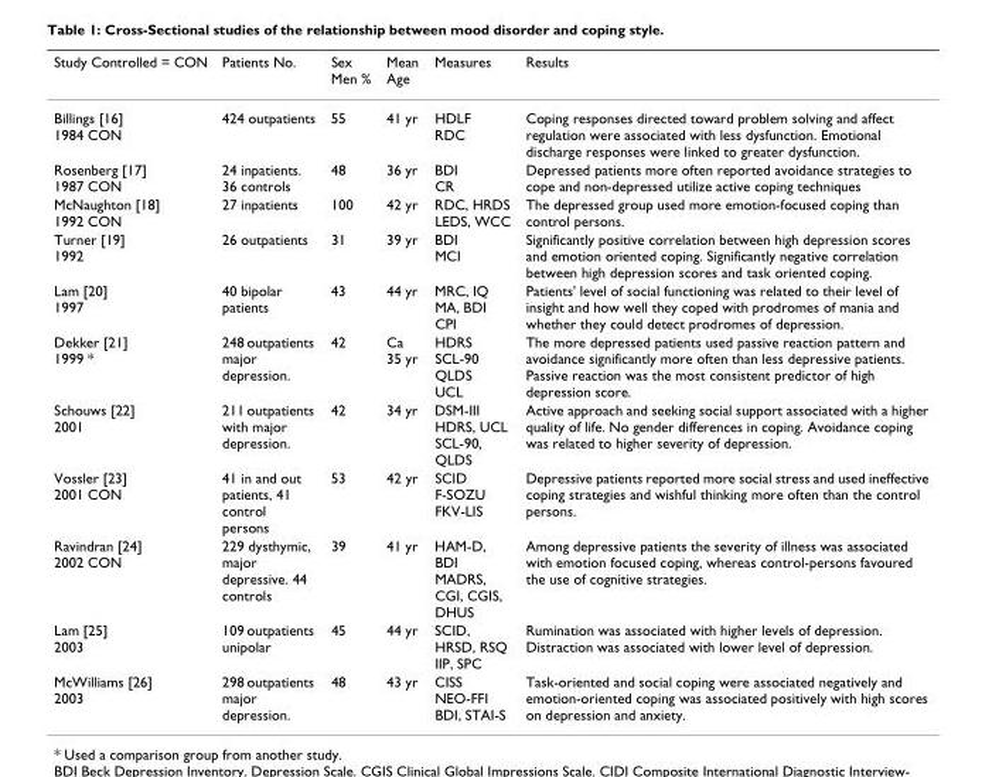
<table><thead><tr><td>Study Controlled = CON</td><td>Patients No.</td><td>Sex Men %</td><td>Mean Age</td><td>Measures</td><td>Results</td></tr></thead><tbody><tr><td>Billings [16] 1984 CON</td><td>424 outpatients</td><td>55</td><td>41 yr</td><td>HDLF RDC</td><td>Coping responses directed toward problem solving and affect regulation were associated with less dysfunction. Emotional discharge responses were linked to greater dysfunction.</td></tr><tr><td>Rosenberg [17] 1987 CON</td><td>24 inpatients. 36 controls</td><td>48</td><td>36 yr</td><td>BDI CR</td><td>Depressed patients more often reported avoidance strategies to cope and non-depressed utilize active coping techniques</td></tr><tr><td>McNaughton [18] 1992 CON</td><td>27 inpatients</td><td>100</td><td>42 yr</td><td>RDC, HRDS LEDS, WCC</td><td>The depressed group used more emotion-focused coping than control persons.</td></tr><tr><td>Turner [19] 1992</td><td>26 outpatients</td><td>31</td><td>39 yr</td><td>BDI MCI</td><td>Significantly positive correlation between high depression scores and emotion oriented coping. Significantly negative correlation between high depression scores and task oriented coping.</td></tr><tr><td>Lam [20] 1997</td><td>40 bipolar patients</td><td>43</td><td>44 yr</td><td>MRC, IQ MA, BDI CPI</td><td>Patients&#x27; level of social functioning was related to their level of insight and how well they coped with prodromes of mania and whether they could detect prodromes of depression.</td></tr><tr><td>Dekker [21] 1999 *</td><td>248 outpatients major depression.</td><td>42</td><td>Ca 35 yr</td><td>HDRS SCL-90 QLDS UCL</td><td>The more depressed patients used passive reaction pattern and avoidance significantly more often than less depressive patients. Passive reaction was the most consistent predictor of high depression score.</td></tr><tr><td>Schouws [22] 2001</td><td>211 outpatients with major depression.</td><td>42</td><td>34 yr</td><td>DSM-III HDRS, UCL SCL-90, QLDS</td><td>Active approach and seeking social support associated with a higher quality of life. No gender differences in coping. Avoidance coping was related to higher severity of depression.</td></tr><tr><td>Vossler [23] 2001 CON</td><td>41 in and out patients, 41 control persons</td><td>53</td><td>42 yr</td><td>SCID F-SOZU FKV-LIS</td><td>Depressive patients reported more social stress and used ineffective coping strategies and wishful thinking more often than the control persons.</td></tr><tr><td>Ravindran [24] 2002 CON</td><td>229 dysthymic, major depressive. 44 controls</td><td>39</td><td>41 yr</td><td>HAM-D, BDI MADRS, CGI, CGIS, DHUS</td><td>Among depressive patients the severity of illness was associated with emotion focused coping, whereas control-persons favoured the use of cognitive strategies.</td></tr><tr><td>Lam [25] 2003</td><td>109 outpatients unipolar</td><td>45</td><td>44 yr</td><td>SCID, HRSD, RSQ IIP, SPC</td><td>Rumination was associated with higher levels of depression. Distraction was associated with lower level of depression.</td></tr><tr><td>McWilliams [26] 2003</td><td>298 outpatients major depression.</td><td>48</td><td>43 yr</td><td>CISS NEO-FFI BDI, STAI-S</td><td>Task-oriented and social coping were associated negatively and emotion-oriented coping was associated positively with high scores on depression and anxiety.</td></tr></tbody></table>